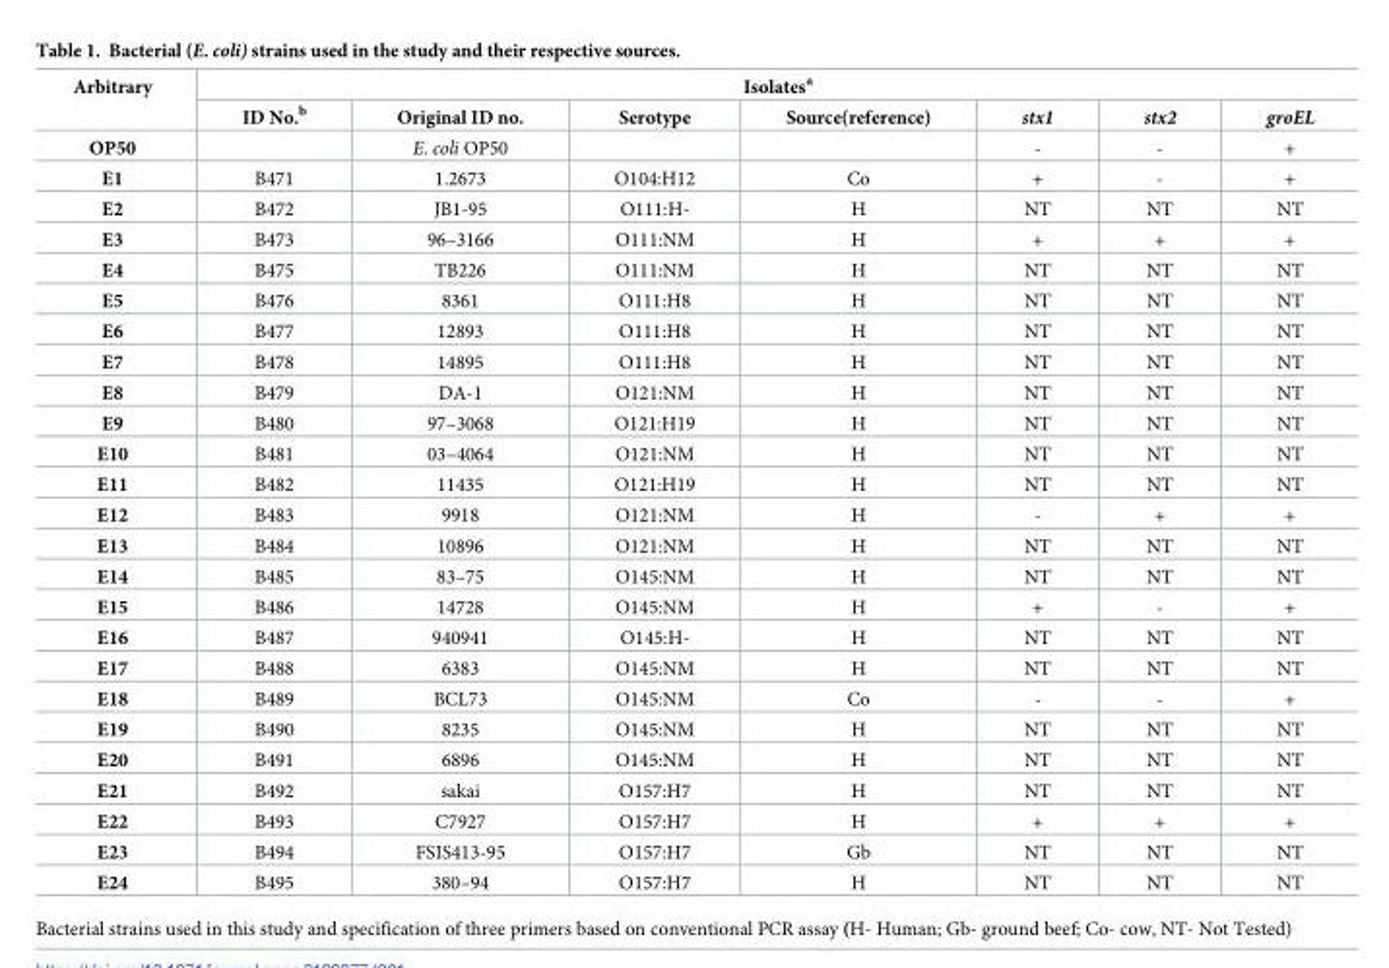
<table><thead><tr><td rowspan="2">Arbitrary</td><td colspan="7">Isolates<sup>a</sup></td></tr><tr><td>ID No.<sup>b</sup></td><td>Original ID no.</td><td>Serotype</td><td>Source(reference)</td><td>stx1</td><td>stx2</td><td>groEL</td></tr></thead><tbody><tr><td>OP50</td><td></td><td>E. coli OP50</td><td></td><td></td><td>-</td><td>-</td><td>+</td></tr><tr><td>E1</td><td>B471</td><td>1.2673</td><td>O104:H12</td><td>Co</td><td>+</td><td>-</td><td>+</td></tr><tr><td>E2</td><td>B472</td><td>JB1-95</td><td>O111:H-</td><td>H</td><td>NT</td><td>NT</td><td>NT</td></tr><tr><td>E3</td><td>B473</td><td>96–3166</td><td>O111:NM</td><td>H</td><td>+</td><td>+</td><td>+</td></tr><tr><td>E4</td><td>B475</td><td>TB226</td><td>O111:NM</td><td>H</td><td>NT</td><td>NT</td><td>NT</td></tr><tr><td>E5</td><td>B476</td><td>8361</td><td>O111:H8</td><td>H</td><td>NT</td><td>NT</td><td>NT</td></tr><tr><td>E6</td><td>B477</td><td>12893</td><td>O111:H8</td><td>H</td><td>NT</td><td>NT</td><td>NT</td></tr><tr><td>E7</td><td>B478</td><td>14895</td><td>O111:H8</td><td>H</td><td>NT</td><td>NT</td><td>NT</td></tr><tr><td>E8</td><td>B479</td><td>DA-1</td><td>O121:NM</td><td>H</td><td>NT</td><td>NT</td><td>NT</td></tr><tr><td>E9</td><td>B480</td><td>97–3068</td><td>O121:H19</td><td>H</td><td>NT</td><td>NT</td><td>NT</td></tr><tr><td>E10</td><td>B481</td><td>03–4064</td><td>O121:NM</td><td>H</td><td>NT</td><td>NT</td><td>NT</td></tr><tr><td>E11</td><td>B482</td><td>11435</td><td>O121:H19</td><td>H</td><td>NT</td><td>NT</td><td>NT</td></tr><tr><td>E12</td><td>B483</td><td>9918</td><td>O121:NM</td><td>H</td><td>-</td><td>+</td><td>+</td></tr><tr><td>E13</td><td>B484</td><td>10896</td><td>O121:NM</td><td>H</td><td>NT</td><td>NT</td><td>NT</td></tr><tr><td>E14</td><td>B485</td><td>83–75</td><td>O145:NM</td><td>H</td><td>NT</td><td>NT</td><td>NT</td></tr><tr><td>E15</td><td>B486</td><td>14728</td><td>O145:NM</td><td>H</td><td>+</td><td>-</td><td>+</td></tr><tr><td>E16</td><td>B487</td><td>940941</td><td>O145:H-</td><td>H</td><td>NT</td><td>NT</td><td>NT</td></tr><tr><td>E17</td><td>B488</td><td>6383</td><td>O145:NM</td><td>H</td><td>NT</td><td>NT</td><td>NT</td></tr><tr><td>E18</td><td>B489</td><td>BCL73</td><td>O145:NM</td><td>Co</td><td>-</td><td>-</td><td>+</td></tr><tr><td>E19</td><td>B490</td><td>8235</td><td>O145:NM</td><td>H</td><td>NT</td><td>NT</td><td>NT</td></tr><tr><td>E20</td><td>B491</td><td>6896</td><td>O145:NM</td><td>H</td><td>NT</td><td>NT</td><td>NT</td></tr><tr><td>E21</td><td>B492</td><td>sakai</td><td>O157:H7</td><td>H</td><td>NT</td><td>NT</td><td>NT</td></tr><tr><td>E22</td><td>B493</td><td>C7927</td><td>O157:H7</td><td>H</td><td>+</td><td>+</td><td>+</td></tr><tr><td>E23</td><td>B494</td><td>FSIS413-95</td><td>O157:H7</td><td>Gb</td><td>NT</td><td>NT</td><td>NT</td></tr><tr><td>E24</td><td>B495</td><td>380–94</td><td>O157:H7</td><td>H</td><td>NT</td><td>NT</td><td>NT</td></tr></tbody></table>